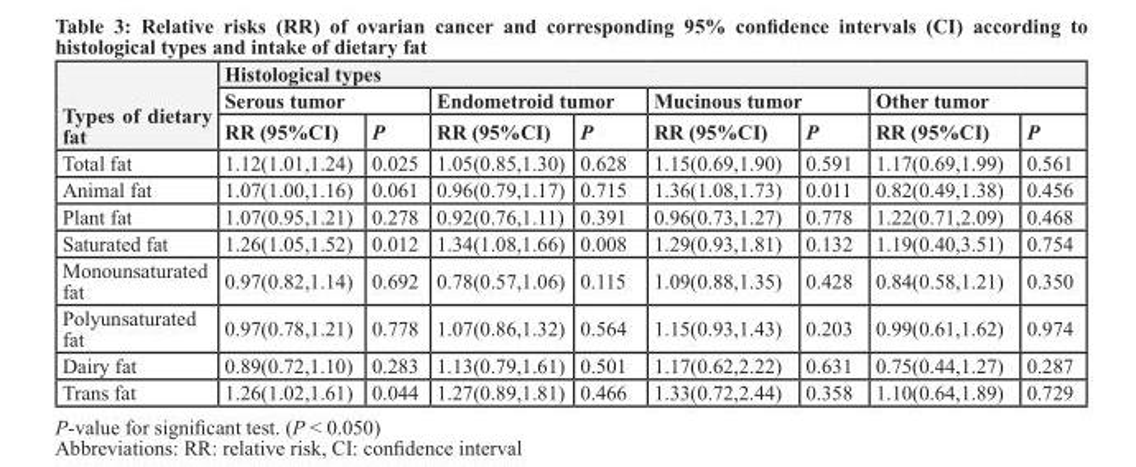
<table><thead><tr><td rowspan="3">types of dietary fat</td><td colspan="8">Histological types</td></tr><tr><td colspan="2">serous tumor</td><td colspan="2">endometroid tumor</td><td colspan="2">Mucinous tumor</td><td colspan="2">other tumor</td></tr><tr><td>RR (95%CI)</td><td>P</td><td>RR (95%CI)</td><td>P</td><td>RR (95%CI)</td><td>P</td><td>RR (95%CI)</td><td>P</td></tr></thead><tbody><tr><td>Total fat</td><td>1.12(1.01,1.24)</td><td>0.025</td><td>1.05(0.85,1.30)</td><td>0.628</td><td>1.15(0.69,1.90)</td><td>0.591</td><td>1.17(0.69,1.99)</td><td>0.561</td></tr><tr><td>Animal fat</td><td>1.07(1.00,1.16)</td><td>0.061</td><td>0.96(0.79,1.17)</td><td>0.715</td><td>1.36(1.08,1.73)</td><td>0.011</td><td>0.82(0.49,1.38)</td><td>0.456</td></tr><tr><td>Plant fat</td><td>1.07(0.95,1.21)</td><td>0.278</td><td>0.92(0.76,1.11)</td><td>0.391</td><td>0.96(0.73,1.27)</td><td>0.778</td><td>1.22(0.71,2.09)</td><td>0.468</td></tr><tr><td>Saturated fat</td><td>1.26(1.05,1.52)</td><td>0.012</td><td>1.34(1.08,1.66)</td><td>0.008</td><td>1.29(0.93,1.81)</td><td>0.132</td><td>1.19(0.40,3.51)</td><td>0.754</td></tr><tr><td>Monounsaturated fat</td><td>0.97(0.82,1.14)</td><td>0.692</td><td>0.78(0.57,1.06)</td><td>0.115</td><td>1.09(0.88,1.35)</td><td>0.428</td><td>0.84(0.58,1.21)</td><td>0.350</td></tr><tr><td>Polyunsaturated fat</td><td>0.97(0.78,1.21)</td><td>0.778</td><td>1.07(0.86,1.32)</td><td>0.564</td><td>1.15(0.93,1.43)</td><td>0.203</td><td>0.99(0.61,1.62)</td><td>0.974</td></tr><tr><td>Dairy fat</td><td>0.89(0.72,1.10)</td><td>0.283</td><td>1.13(0.79,1.61)</td><td>0.501</td><td>1.17(0.62,2.22)</td><td>0.631</td><td>0.75(0.44,1.27)</td><td>0.287</td></tr><tr><td>Trans fat</td><td>1.26(1.02,1.61)</td><td>0.044</td><td>1.27(0.89,1.81)</td><td>0.466</td><td>1.33(0.72,2.44)</td><td>0.358</td><td>1.10(0.64,1.89)</td><td>0.729</td></tr></tbody></table>